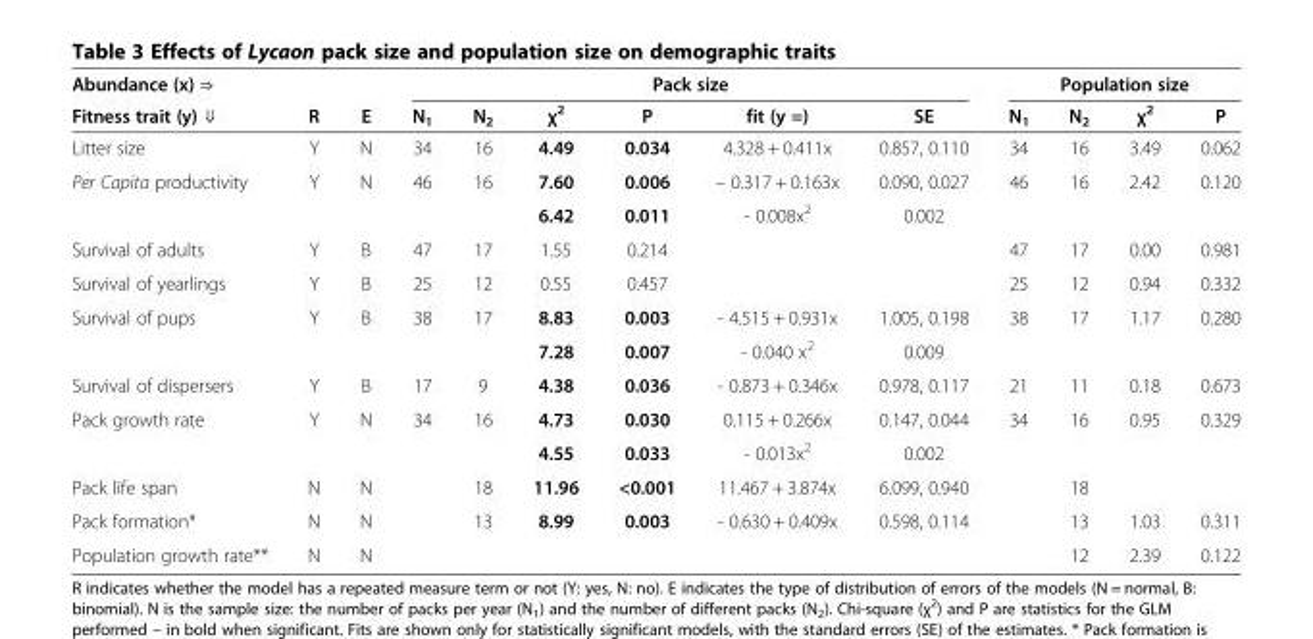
<table><thead><tr><td rowspan="2">Abundance (x) ⇒ Fitness trait (y) ⇓</td><td rowspan="2">R</td><td rowspan="2">E</td><td colspan="6">Pack size</td><td colspan="4">Population size</td></tr><tr><td>N<sub>1</sub></td><td>N<sub>2</sub></td><td>χ<sup>2</sup></td><td>P</td><td>fit (y =)</td><td>SE</td><td>N<sub>1</sub></td><td>N<sub>2</sub></td><td>χ<sup>2</sup></td><td>P</td></tr></thead><tbody><tr><td>Litter size</td><td>Y</td><td>N</td><td>34</td><td>16</td><td>4.49</td><td>0.034</td><td>4.328 + 0.411x</td><td>0.857, 0.110</td><td>34</td><td>16</td><td>3.49</td><td>0.062</td></tr><tr><td rowspan="2">Per Capita productivity</td><td>Y</td><td>N</td><td>46</td><td>16</td><td>7.60</td><td>0.006</td><td>– 0.317 + 0.163x</td><td>0.090, 0.027</td><td>46</td><td>16</td><td>2.42</td><td>0.120</td></tr><tr><td></td><td></td><td></td><td></td><td>6.42</td><td>0.011</td><td>- 0.008x<sup>2</sup></td><td>0.002</td><td></td><td></td><td></td><td></td></tr><tr><td>Survival of adults</td><td>Y</td><td>B</td><td>47</td><td>17</td><td>1.55</td><td>0.214</td><td></td><td></td><td>47</td><td>17</td><td>0.00</td><td>0.981</td></tr><tr><td>Survival of yearlings</td><td>Y</td><td>B</td><td>25</td><td>12</td><td>0.55</td><td>0.457</td><td></td><td></td><td>25</td><td>12</td><td>0.94</td><td>0.332</td></tr><tr><td rowspan="2">Survival of pups</td><td>Y</td><td>B</td><td>38</td><td>17</td><td>8.83</td><td>0.003</td><td>- 4.515 + 0.931x</td><td>1.005, 0.198</td><td>38</td><td>17</td><td>1.17</td><td>0.280</td></tr><tr><td></td><td></td><td></td><td></td><td>7.28</td><td>0.007</td><td>- 0.040 x<sup>2</sup></td><td>0.009</td><td></td><td></td><td></td><td></td></tr><tr><td>Survival of dispersers</td><td>Y</td><td>B</td><td>17</td><td>9</td><td>4.38</td><td>0.036</td><td>- 0.873 + 0.346x</td><td>0.978, 0.117</td><td>21</td><td>11</td><td>0.18</td><td>0.673</td></tr><tr><td rowspan="2">Pack growth rate</td><td>Y</td><td>N</td><td>34</td><td>16</td><td>4.73</td><td>0.030</td><td>0.115 + 0.266x</td><td>0.147, 0.044</td><td>34</td><td>16</td><td>0.95</td><td>0.329</td></tr><tr><td></td><td></td><td></td><td></td><td>4.55</td><td>0.033</td><td>- 0.013x<sup>2</sup></td><td>0.002</td><td></td><td></td><td></td><td></td></tr><tr><td>Pack life span</td><td>N</td><td>N</td><td></td><td>18</td><td>11.96</td><td>&lt;0.001</td><td>11.467 + 3.874x</td><td>6.099, 0.940</td><td></td><td>18</td><td></td><td></td></tr><tr><td>Pack formation*</td><td>N</td><td>N</td><td></td><td>13</td><td>8.99</td><td>0.003</td><td>- 0.630 + 0.409x</td><td>0.598, 0.114</td><td></td><td>13</td><td>1.03</td><td>0.311</td></tr><tr><td>Population growth rate**</td><td>N</td><td>N</td><td></td><td></td><td></td><td></td><td></td><td></td><td></td><td>12</td><td>2.39</td><td>0.122</td></tr></tbody></table>